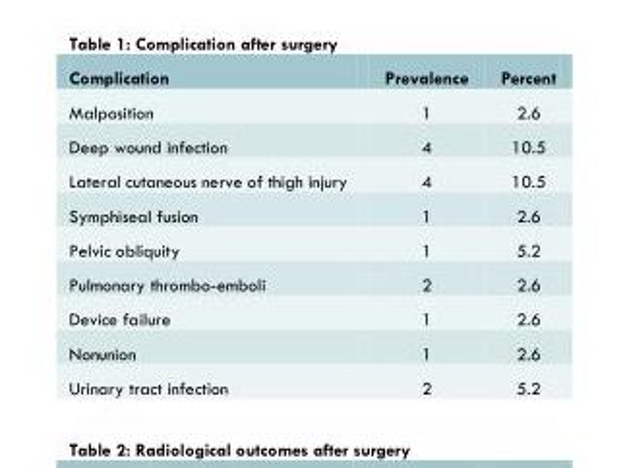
<table><thead><tr><td>Complication</td><td>Prevalence</td><td>Percent</td></tr></thead><tbody><tr><td>Malposition</td><td>1</td><td>2.6</td></tr><tr><td>Deep wound infection</td><td>4</td><td>10.5</td></tr><tr><td>Lateral cutaneous nerve of thigh injury</td><td>4</td><td>10.5</td></tr><tr><td>Symphiseal fusion</td><td>1</td><td>2.6</td></tr><tr><td>Pelvic obliquity</td><td>1</td><td>5.2</td></tr><tr><td>Pulmonary thrombo-emboli</td><td>2</td><td>2.6</td></tr><tr><td>Device failure</td><td>1</td><td>2.6</td></tr><tr><td>Nonunion</td><td>1</td><td>2.6</td></tr><tr><td>Urinary tract infection</td><td>2</td><td>5.2</td></tr></tbody></table>